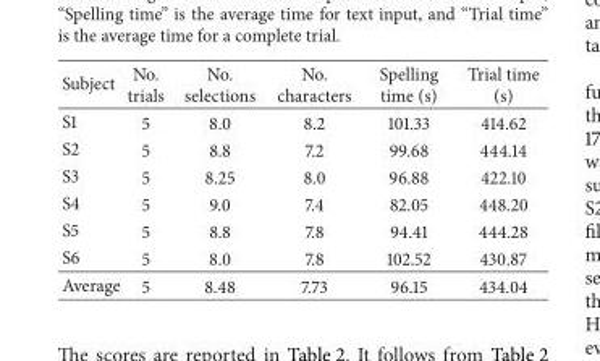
<table><thead><tr><td>Subject</td><td>No. trials</td><td>No. selections</td><td>No. characters</td><td>Spelling time (s)</td><td>Trial time (s)</td></tr></thead><tbody><tr><td>S1</td><td>5</td><td>8.0</td><td>8.2</td><td>101.33</td><td>414.62</td></tr><tr><td>S2</td><td>5</td><td>8.8</td><td>7.2</td><td>99.68</td><td>444.14</td></tr><tr><td>S3</td><td>5</td><td>8.25</td><td>8.0</td><td>96.88</td><td>422.10</td></tr><tr><td>S4</td><td>5</td><td>9.0</td><td>7.4</td><td>82.05</td><td>448.20</td></tr><tr><td>S5</td><td>5</td><td>8.8</td><td>7.8</td><td>94.41</td><td>444.28</td></tr><tr><td>S6</td><td>5</td><td>8.0</td><td>7.8</td><td>102.52</td><td>430.87</td></tr><tr><td>Average</td><td>5</td><td>8.48</td><td>7.73</td><td>96.15</td><td>434.04</td></tr></tbody></table>